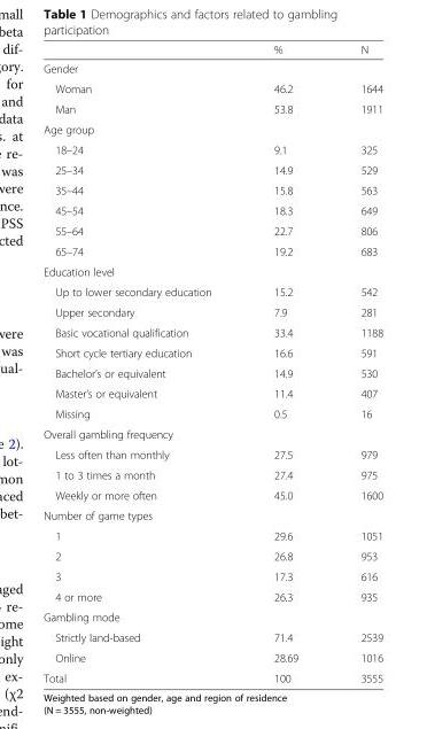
<table><thead><tr><td></td><td>%</td><td>N</td></tr></thead><tbody><tr><td colspan="3">Gender</td></tr><tr><td>Woman</td><td>46.2</td><td>1644</td></tr><tr><td>Man</td><td>53.8</td><td>1911</td></tr><tr><td colspan="3">Age group</td></tr><tr><td>18–24</td><td>9.1</td><td>325</td></tr><tr><td>25–34</td><td>14.9</td><td>529</td></tr><tr><td>35–44</td><td>15.8</td><td>563</td></tr><tr><td>45–54</td><td>18.3</td><td>649</td></tr><tr><td>55–64</td><td>22.7</td><td>806</td></tr><tr><td>65–74</td><td>19.2</td><td>683</td></tr><tr><td colspan="3">Education level</td></tr><tr><td>Up to lower secondary education</td><td>15.2</td><td>542</td></tr><tr><td>Upper secondary</td><td>7.9</td><td>281</td></tr><tr><td>Basic vocational qualification</td><td>33.4</td><td>1188</td></tr><tr><td>Short cycle tertiary education</td><td>16.6</td><td>591</td></tr><tr><td>Bachelor’s or equivalent</td><td>14.9</td><td>530</td></tr><tr><td>Master’s or equivalent</td><td>11.4</td><td>407</td></tr><tr><td>Missing</td><td>0.5</td><td>16</td></tr><tr><td colspan="3">Overall gambling frequency</td></tr><tr><td>Less often than monthly</td><td>27.5</td><td>979</td></tr><tr><td>1 to 3 times a month</td><td>27.4</td><td>975</td></tr><tr><td>Weekly or more often</td><td>45.0</td><td>1600</td></tr><tr><td colspan="3">Number of game types</td></tr><tr><td>1</td><td>29.6</td><td>1051</td></tr><tr><td>2</td><td>26.8</td><td>953</td></tr><tr><td>3</td><td>17.3</td><td>616</td></tr><tr><td>4 or more</td><td>26.3</td><td>935</td></tr><tr><td colspan="3">Gambling mode</td></tr><tr><td>Strictly land-based</td><td>71.4</td><td>2539</td></tr><tr><td>Online</td><td>28.69</td><td>1016</td></tr><tr><td>Total</td><td>100</td><td>3555</td></tr></tbody></table>